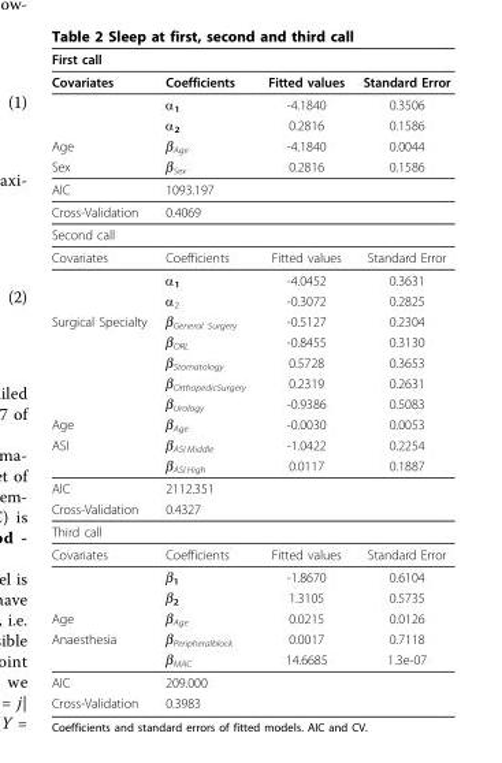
<table><thead><tr><td>First call</td><td></td><td></td><td></td></tr></thead><tbody><tr><td rowspan="3">Covariates</td><td>Coefficients</td><td>Fitted values</td><td>Standard Error</td></tr><tr><td>α<sub>1</sub></td><td>-4.1840</td><td>0.3506</td></tr><tr><td>α<sub>2</sub></td><td>0.2816</td><td>0.1586</td></tr><tr><td>Age</td><td>β<sub>Age</sub></td><td>-4.1840</td><td>0.0044</td></tr><tr><td>Sex</td><td>β<sub>Sex</sub></td><td>0.2816</td><td>0.1586</td></tr><tr><td>AIC</td><td>1093.197</td><td></td><td></td></tr><tr><td>Cross-Validation</td><td>0.4069</td><td></td><td></td></tr><tr><td colspan="4">Second call</td></tr><tr><td rowspan="3">Covariates</td><td>Coefficients</td><td>Fitted values</td><td>Standard Error</td></tr><tr><td>α<sub>1</sub></td><td>-4.0452</td><td>0.3631</td></tr><tr><td>α<sub>2</sub></td><td>-0.3072</td><td>0.2825</td></tr><tr><td rowspan="5">Surgical Specialty</td><td>β<sub>General Surgery</sub></td><td>-0.5127</td><td>0.2304</td></tr><tr><td>β<sub>ORL</sub></td><td>-0.8455</td><td>0.3130</td></tr><tr><td>β<sub>Stomatology</sub></td><td>0.5728</td><td>0.3653</td></tr><tr><td>β<sub>OrthopedicSurgery</sub></td><td>0.2319</td><td>0.2631</td></tr><tr><td>β<sub>Urology</sub></td><td>-0.9386</td><td>0.5083</td></tr><tr><td>Age</td><td>β<sub>Age</sub></td><td>-0.0030</td><td>0.0053</td></tr><tr><td rowspan="2">ASI</td><td>β<sub>ASI.Middle</sub></td><td>-1.0422</td><td>0.2254</td></tr><tr><td>β<sub>ASI.High</sub></td><td>0.0117</td><td>0.1887</td></tr><tr><td>AIC</td><td>2112.351</td><td></td><td></td></tr><tr><td>Cross-Validation</td><td>0.4327</td><td></td><td></td></tr><tr><td colspan="4">Third call</td></tr><tr><td rowspan="3">Covariates</td><td>Coefficients</td><td>Fitted values</td><td>Standard Error</td></tr><tr><td>β<sub>1</sub></td><td>-1.8670</td><td>0.6104</td></tr><tr><td>β<sub>2</sub></td><td>1.3105</td><td>0.5735</td></tr><tr><td>Age</td><td>β<sub>Age</sub></td><td>0.0215</td><td>0.0126</td></tr><tr><td rowspan="2">Anaesthesia</td><td>β<sub>Peripheralblock</sub></td><td>0.0017</td><td>0.7118</td></tr><tr><td>β<sub>MAC</sub></td><td>14.6685</td><td>1.3e-07</td></tr><tr><td>AIC</td><td>209.000</td><td></td><td></td></tr><tr><td>Cross-Validation</td><td>0.3983</td><td></td><td></td></tr></tbody></table>